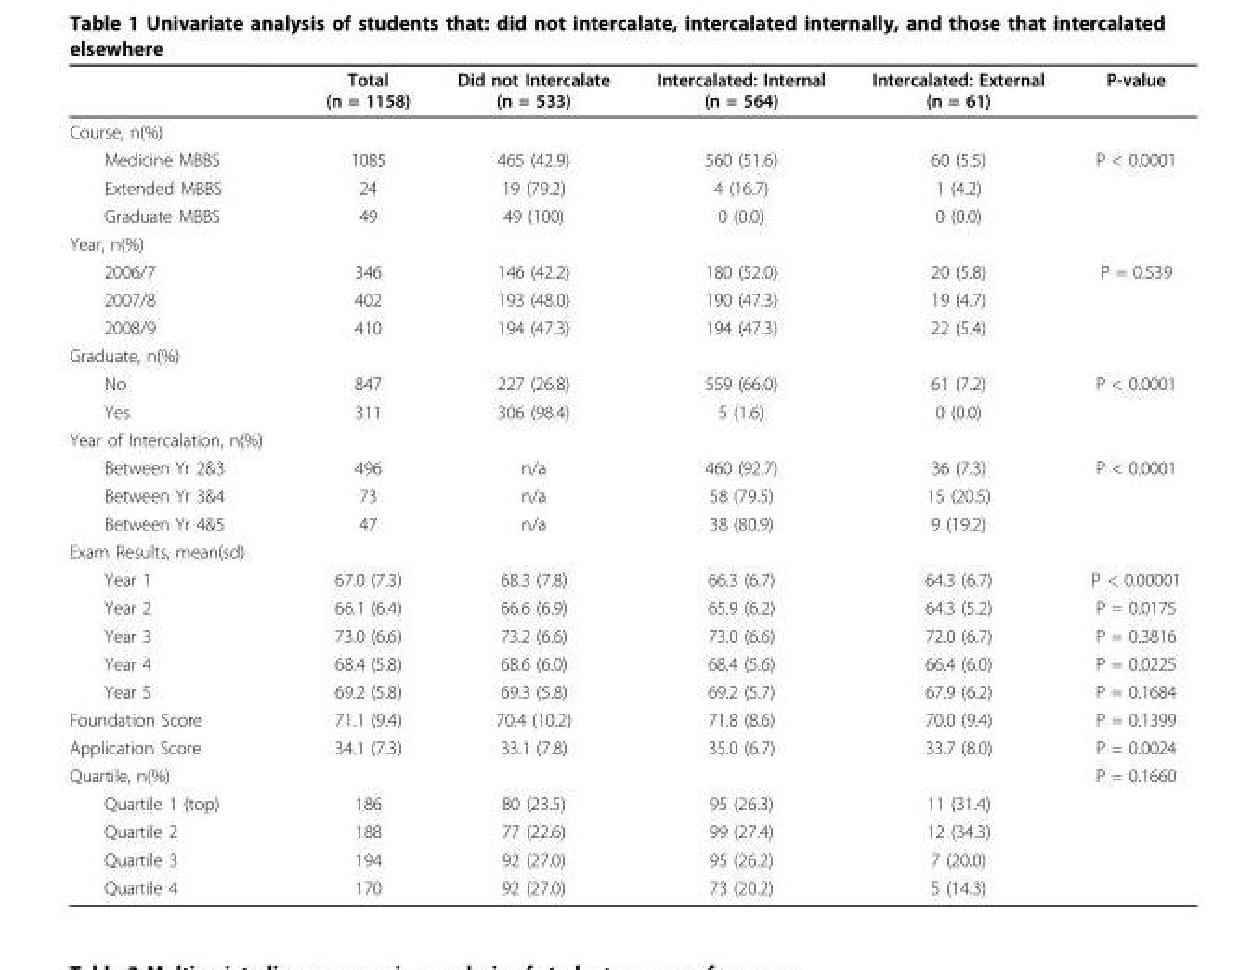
<table><thead><tr><td></td><td>Total (n = 1158)</td><td>Did not Intercalate (n = 533)</td><td>Intercalated: Internal (n = 564)</td><td>Intercalated: External (n = 61)</td><td>P-value</td></tr></thead><tbody><tr><td colspan="6">Course, n(%)</td></tr><tr><td>Medicine MBBS</td><td>1085</td><td>465 (42.9)</td><td>560 (51.6)</td><td>60 (5.5)</td><td>P &lt; 0.0001</td></tr><tr><td>Extended MBBS</td><td>24</td><td>19 (79.2)</td><td>4 (16.7)</td><td>1 (4.2)</td><td></td></tr><tr><td>Graduate MBBS</td><td>49</td><td>49 (100)</td><td>0 (0.0)</td><td>0 (0.0)</td><td></td></tr><tr><td colspan="6">Year, n(%)</td></tr><tr><td>2006/7</td><td>346</td><td>146 (42.2)</td><td>180 (52.0)</td><td>20 (5.8)</td><td>P = 0.539</td></tr><tr><td>2007/8</td><td>402</td><td>193 (48.0)</td><td>190 (47.3)</td><td>19 (4.7)</td><td></td></tr><tr><td>2008/9</td><td>410</td><td>194 (47.3)</td><td>194 (47.3)</td><td>22 (5.4)</td><td></td></tr><tr><td colspan="6">Graduate, n(%)</td></tr><tr><td>No</td><td>847</td><td>227 (26.8)</td><td>559 (66.0)</td><td>61 (7.2)</td><td>P &lt; 0.0001</td></tr><tr><td>Yes</td><td>311</td><td>306 (98.4)</td><td>5 (1.6)</td><td>0 (0.0)</td><td></td></tr><tr><td colspan="6">Year of Intercalation, n(%)</td></tr><tr><td>Between Yr 2&amp;3</td><td>496</td><td>n/a</td><td>460 (92.7)</td><td>36 (7.3)</td><td>P &lt; 0.0001</td></tr><tr><td>Between Yr 3&amp;4</td><td>73</td><td>n/a</td><td>58 (79.5)</td><td>15 (20.5)</td><td></td></tr><tr><td>Between Yr 4&amp;5</td><td>47</td><td>n/a</td><td>38 (80.9)</td><td>9 (19.2)</td><td></td></tr><tr><td colspan="6">Exam Results, mean(sd)</td></tr><tr><td>Year 1</td><td>67.0 (7.3)</td><td>68.3 (7.8)</td><td>66.3 (6.7)</td><td>64.3 (6.7)</td><td>P &lt; 0.00001</td></tr><tr><td>Year 2</td><td>66.1 (6.4)</td><td>66.6 (6.9)</td><td>65.9 (6.2)</td><td>64.3 (5.2)</td><td>P = 0.0175</td></tr><tr><td>Year 3</td><td>73.0 (6.6)</td><td>73.2 (6.6)</td><td>73.0 (6.6)</td><td>72.0 (6.7)</td><td>P = 0.3816</td></tr><tr><td>Year 4</td><td>68.4 (5.8)</td><td>68.6 (6.0)</td><td>68.4 (5.6)</td><td>66.4 (6.0)</td><td>P = 0.0225</td></tr><tr><td>Year 5</td><td>69.2 (5.8)</td><td>69.3 (5.8)</td><td>69.2 (5.7)</td><td>67.9 (6.2)</td><td>P = 0.1684</td></tr><tr><td>Foundation Score</td><td>71.1 (9.4)</td><td>70.4 (10.2)</td><td>71.8 (8.6)</td><td>70.0 (9.4)</td><td>P = 0.1399</td></tr><tr><td>Application Score</td><td>34.1 (7.3)</td><td>33.1 (7.8)</td><td>35.0 (6.7)</td><td>33.7 (8.0)</td><td>P = 0.0024</td></tr><tr><td>Quartile, n(%)</td><td></td><td></td><td></td><td></td><td>P = 0.1660</td></tr><tr><td>Quartile 1 (top)</td><td>186</td><td>80 (23.5)</td><td>95 (26.3)</td><td>11 (31.4)</td><td></td></tr><tr><td>Quartile 2</td><td>188</td><td>77 (22.6)</td><td>99 (27.4)</td><td>12 (34.3)</td><td></td></tr><tr><td>Quartile 3</td><td>194</td><td>92 (27.0)</td><td>95 (26.2)</td><td>7 (20.0)</td><td></td></tr><tr><td>Quartile 4</td><td>170</td><td>92 (27.0)</td><td>73 (20.2)</td><td>5 (14.3)</td><td></td></tr></tbody></table>